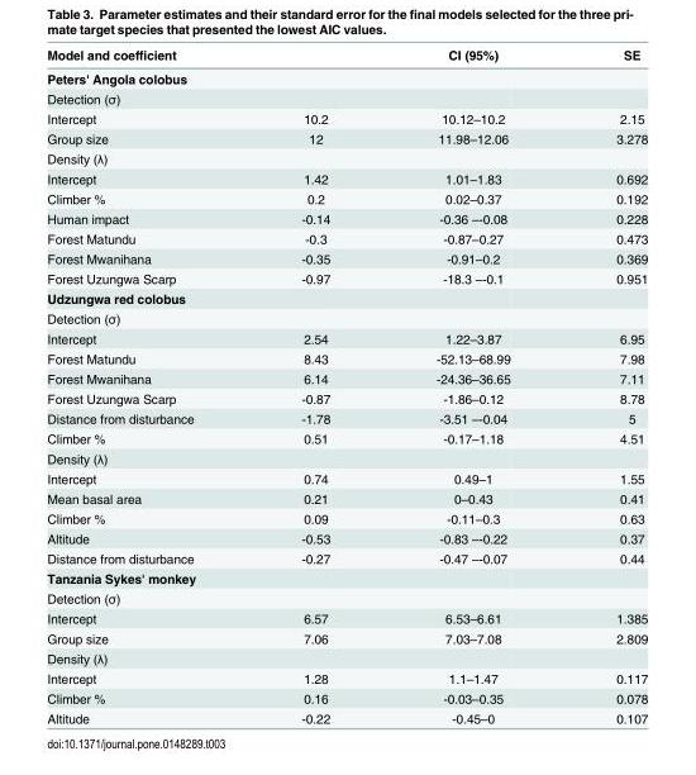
<table><thead><tr><td>Model and coefficient</td><td></td><td>CI (95%)</td><td>SE</td></tr></thead><tbody><tr><td colspan="4">Peters&#x27; Angola colobus</td></tr><tr><td colspan="4">Detection (σ)</td></tr><tr><td>Intercept</td><td>10.2</td><td>10.12–10.2</td><td>2.15</td></tr><tr><td>Group size</td><td>12</td><td>11.98–12.06</td><td>3.278</td></tr><tr><td colspan="4">Density (λ)</td></tr><tr><td>Intercept</td><td>1.42</td><td>1.01–1.83</td><td>0.692</td></tr><tr><td>Climber %</td><td>0.2</td><td>0.02–0.37</td><td>0.192</td></tr><tr><td>Human impact</td><td>-0.14</td><td>-0.36 –-0.08</td><td>0.228</td></tr><tr><td>Forest Matundu</td><td>-0.3</td><td>-0.87–0.27</td><td>0.473</td></tr><tr><td>Forest Mwanihana</td><td>-0.35</td><td>-0.91–0.2</td><td>0.369</td></tr><tr><td>Forest Uzungwa Scarp</td><td>-0.97</td><td>-18.3 –-0.1</td><td>0.951</td></tr><tr><td colspan="4">Udzungwa red colobus</td></tr><tr><td colspan="4">Detection (σ)</td></tr><tr><td>Intercept</td><td>2.54</td><td>1.22–3.87</td><td>6.95</td></tr><tr><td>Forest Matundu</td><td>8.43</td><td>-52.13–68.99</td><td>7.98</td></tr><tr><td>Forest Mwanihana</td><td>6.14</td><td>-24.36–36.65</td><td>7.11</td></tr><tr><td>Forest Uzungwa Scarp</td><td>-0.87</td><td>-1.86–0.12</td><td>8.78</td></tr><tr><td>Distance from disturbance</td><td>-1.78</td><td>-3.51 –-0.04</td><td>5</td></tr><tr><td>Climber %</td><td>0.51</td><td>-0.17–1.18</td><td>4.51</td></tr><tr><td colspan="4">Density (λ)</td></tr><tr><td>Intercept</td><td>0.74</td><td>0.49–1</td><td>1.55</td></tr><tr><td>Mean basal area</td><td>0.21</td><td>0–0.43</td><td>0.41</td></tr><tr><td>Climber %</td><td>0.09</td><td>-0.11–0.3</td><td>0.63</td></tr><tr><td>Altitude</td><td>-0.53</td><td>-0.83 –-0.22</td><td>0.37</td></tr><tr><td>Distance from disturbance</td><td>-0.27</td><td>-0.47 –-0.07</td><td>0.44</td></tr><tr><td colspan="4">Tanzania Sykes&#x27; monkey</td></tr><tr><td colspan="4">Detection (σ)</td></tr><tr><td>Intercept</td><td>6.57</td><td>6.53–6.61</td><td>1.385</td></tr><tr><td>Group size</td><td>7.06</td><td>7.03–7.08</td><td>2.809</td></tr><tr><td colspan="4">Density (λ)</td></tr><tr><td>Intercept</td><td>1.28</td><td>1.1–1.47</td><td>0.117</td></tr><tr><td>Climber %</td><td>0.16</td><td>-0.03–0.35</td><td>0.078</td></tr><tr><td>Altitude</td><td>-0.22</td><td>-0.45–0</td><td>0.107</td></tr></tbody></table>